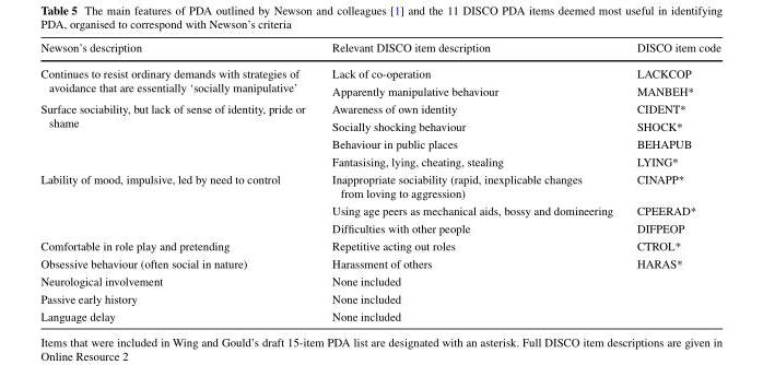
<table><thead><tr><td>Newson’s description</td><td>Relevant DISCO item description</td><td>DISCO item code</td></tr></thead><tbody><tr><td rowspan="2">Continues to resist ordinary demands with strategies of avoidance that are essentially ‘socially manipulative’</td><td>Lack of co-operation</td><td>LACKCOP</td></tr><tr><td>Apparently manipulative behaviour</td><td>MANBEH*</td></tr><tr><td rowspan="4">Surface sociability, but lack of sense of identity, pride or shame</td><td>Awareness of own identity</td><td>CIDENT*</td></tr><tr><td>Socially shocking behaviour</td><td>SHOCK*</td></tr><tr><td>Behaviour in public places</td><td>BEHAPUB</td></tr><tr><td>Fantasising, lying, cheating, stealing</td><td>LYING*</td></tr><tr><td rowspan="3">Lability of mood, impulsive, led by need to control</td><td>Inappropriate sociability (rapid, inexplicable changes from loving to aggression)</td><td>CINAPP*</td></tr><tr><td>Using age peers as mechanical aids, bossy and domineering</td><td>CPEERAD*</td></tr><tr><td>Difficulties with other people</td><td>DIFPEOP</td></tr><tr><td>Comfortable in role play and pretending</td><td>Repetitive acting out roles</td><td>CTROL*</td></tr><tr><td>Obsessive behaviour (often social in nature)</td><td>Harassment of others</td><td>HARAS*</td></tr><tr><td>Neurological involvement</td><td colspan="2">None included</td></tr><tr><td>Passive early history</td><td colspan="2">None included</td></tr><tr><td>Language delay</td><td colspan="2">None included</td></tr></tbody></table>